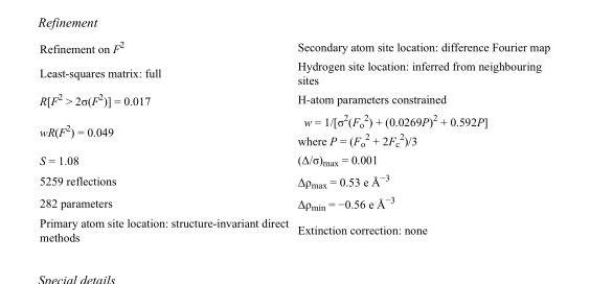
<table><tbody><tr><td>Refinement on F<sup>2</sup></td><td>Secondary atom site location: difference Fourier map</td></tr><tr><td>Least-squares matrix: full</td><td>Hydrogen site location: inferred from neighbouring sites</td></tr><tr><td>R[F<sup>2</sup> &gt; 2σ(F<sup>2</sup>)] = 0.017</td><td>H-atom parameters constrained</td></tr><tr><td>wR(F<sup>2</sup>) = 0.049</td><td>w = 1/[σ<sup>2</sup>(F<sub>o</sub> <sup>2</sup>) + (0.0269P)<sup>2</sup> + 0.592P] where P = (F<sub>o</sub> <sup>2</sup> + 2F<sub>c</sub> <sup>2</sup>)/3</td></tr><tr><td>S = 1.08</td><td>(Δ/σ)<sub>max</sub> = 0.001</td></tr><tr><td>5259 reflections</td><td>Δρ<sub>max</sub> = 0.53 e Å<sup>−3</sup></td></tr><tr><td>282 parameters</td><td>Δρ<sub>min</sub> = −0.56 e Å<sup>−3</sup></td></tr><tr><td>Primary atom site location: structure-invariant direct methods</td><td>Extinction correction: none</td></tr></tbody></table>